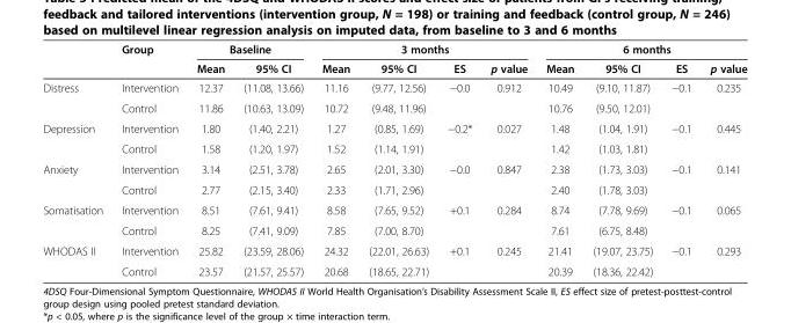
<table><thead><tr><td rowspan="2"></td><td rowspan="2">Group</td><td colspan="2">Baseline</td><td colspan="4">3 months</td><td colspan="4">6 months</td></tr><tr><td>Mean</td><td>95% CI</td><td>Mean</td><td>95% CI</td><td>ES</td><td>p value</td><td>Mean</td><td>95% CI</td><td>ES</td><td>p value</td></tr></thead><tbody><tr><td rowspan="2">Distress</td><td>Intervention</td><td>12.37</td><td>(11.08, 13.66)</td><td>11.16</td><td>(9.77, 12.56)</td><td>−0.0</td><td>0.912</td><td>10.49</td><td>(9.10, 11.87)</td><td>−0.1</td><td>0.235</td></tr><tr><td>Control</td><td>11.86</td><td>(10.63, 13.09)</td><td>10.72</td><td>(9.48, 11.96)</td><td></td><td></td><td>10.76</td><td>(9.50, 12.01)</td><td></td><td></td></tr><tr><td rowspan="2">Depression</td><td>Intervention</td><td>1.80</td><td>(1.40, 2.21)</td><td>1.27</td><td>(0.85, 1.69)</td><td>−0.2*</td><td>0.027</td><td>1.48</td><td>(1.04, 1.91)</td><td>−0.1</td><td>0.445</td></tr><tr><td>Control</td><td>1.58</td><td>(1.20, 1.97)</td><td>1.52</td><td>(1.14, 1.91)</td><td></td><td></td><td>1.42</td><td>(1.03, 1.81)</td><td></td><td></td></tr><tr><td rowspan="2">Anxiety</td><td>Intervention</td><td>3.14</td><td>(2.51, 3.78)</td><td>2.65</td><td>(2.01, 3.30)</td><td>−0.0</td><td>0.847</td><td>2.38</td><td>(1.73, 3.03)</td><td>−0.1</td><td>0.141</td></tr><tr><td>Control</td><td>2.77</td><td>(2.15, 3.40)</td><td>2.33</td><td>(1.71, 2.96)</td><td></td><td></td><td>2.40</td><td>(1.78, 3.03)</td><td></td><td></td></tr><tr><td rowspan="2">Somatisation</td><td>Intervention</td><td>8.51</td><td>(7.61, 9.41)</td><td>8.58</td><td>(7.65, 9.52)</td><td>+0.1</td><td>0.284</td><td>8.74</td><td>(7.78, 9.69)</td><td>−0.1</td><td>0.065</td></tr><tr><td>Control</td><td>8.25</td><td>(7.41, 9.09)</td><td>7.85</td><td>(7.00, 8.70)</td><td></td><td></td><td>7.61</td><td>(6.75, 8.48)</td><td></td><td></td></tr><tr><td rowspan="2">WHODAS II</td><td>Intervention</td><td>25.82</td><td>(23.59, 28.06)</td><td>24.32</td><td>(22.01, 26.63)</td><td>+0.1</td><td>0.245</td><td>21.41</td><td>(19.07, 23.75)</td><td>−0.1</td><td>0.293</td></tr><tr><td>Control</td><td>23.57</td><td>(21.57, 25.57)</td><td>20.68</td><td>(18.65, 22.71)</td><td></td><td></td><td>20.39</td><td>(18.36, 22.42)</td><td></td><td></td></tr></tbody></table>